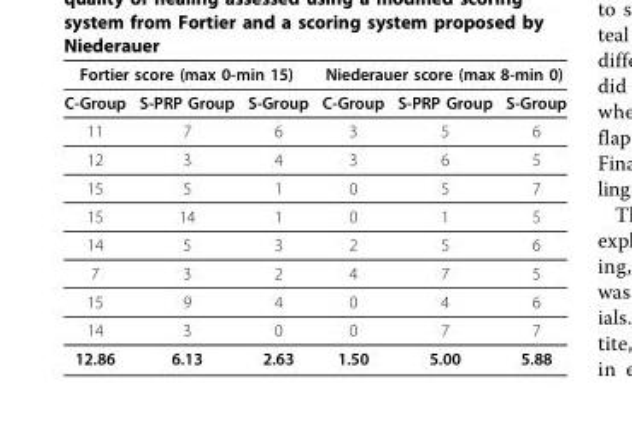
<table><thead><tr><td colspan="3">Fortier score (max 0-min 15)</td><td colspan="3">Niederauer score (max 8-min 0)</td></tr><tr><td>C-Group</td><td>S-PRP Group</td><td>S-Group</td><td>C-Group</td><td>S-PRP Group</td><td>S-Group</td></tr></thead><tbody><tr><td>11</td><td>7</td><td>6</td><td>3</td><td>5</td><td>6</td></tr><tr><td>12</td><td>3</td><td>4</td><td>3</td><td>6</td><td>5</td></tr><tr><td>15</td><td>5</td><td>1</td><td>0</td><td>5</td><td>7</td></tr><tr><td>15</td><td>14</td><td>1</td><td>0</td><td>1</td><td>5</td></tr><tr><td>14</td><td>5</td><td>3</td><td>2</td><td>5</td><td>6</td></tr><tr><td>7</td><td>3</td><td>2</td><td>4</td><td>7</td><td>5</td></tr><tr><td>15</td><td>9</td><td>4</td><td>0</td><td>4</td><td>6</td></tr><tr><td>14</td><td>3</td><td>0</td><td>0</td><td>7</td><td>7</td></tr><tr><td>12.86</td><td>6.13</td><td>2.63</td><td>1.50</td><td>5.00</td><td>5.88</td></tr></tbody></table>